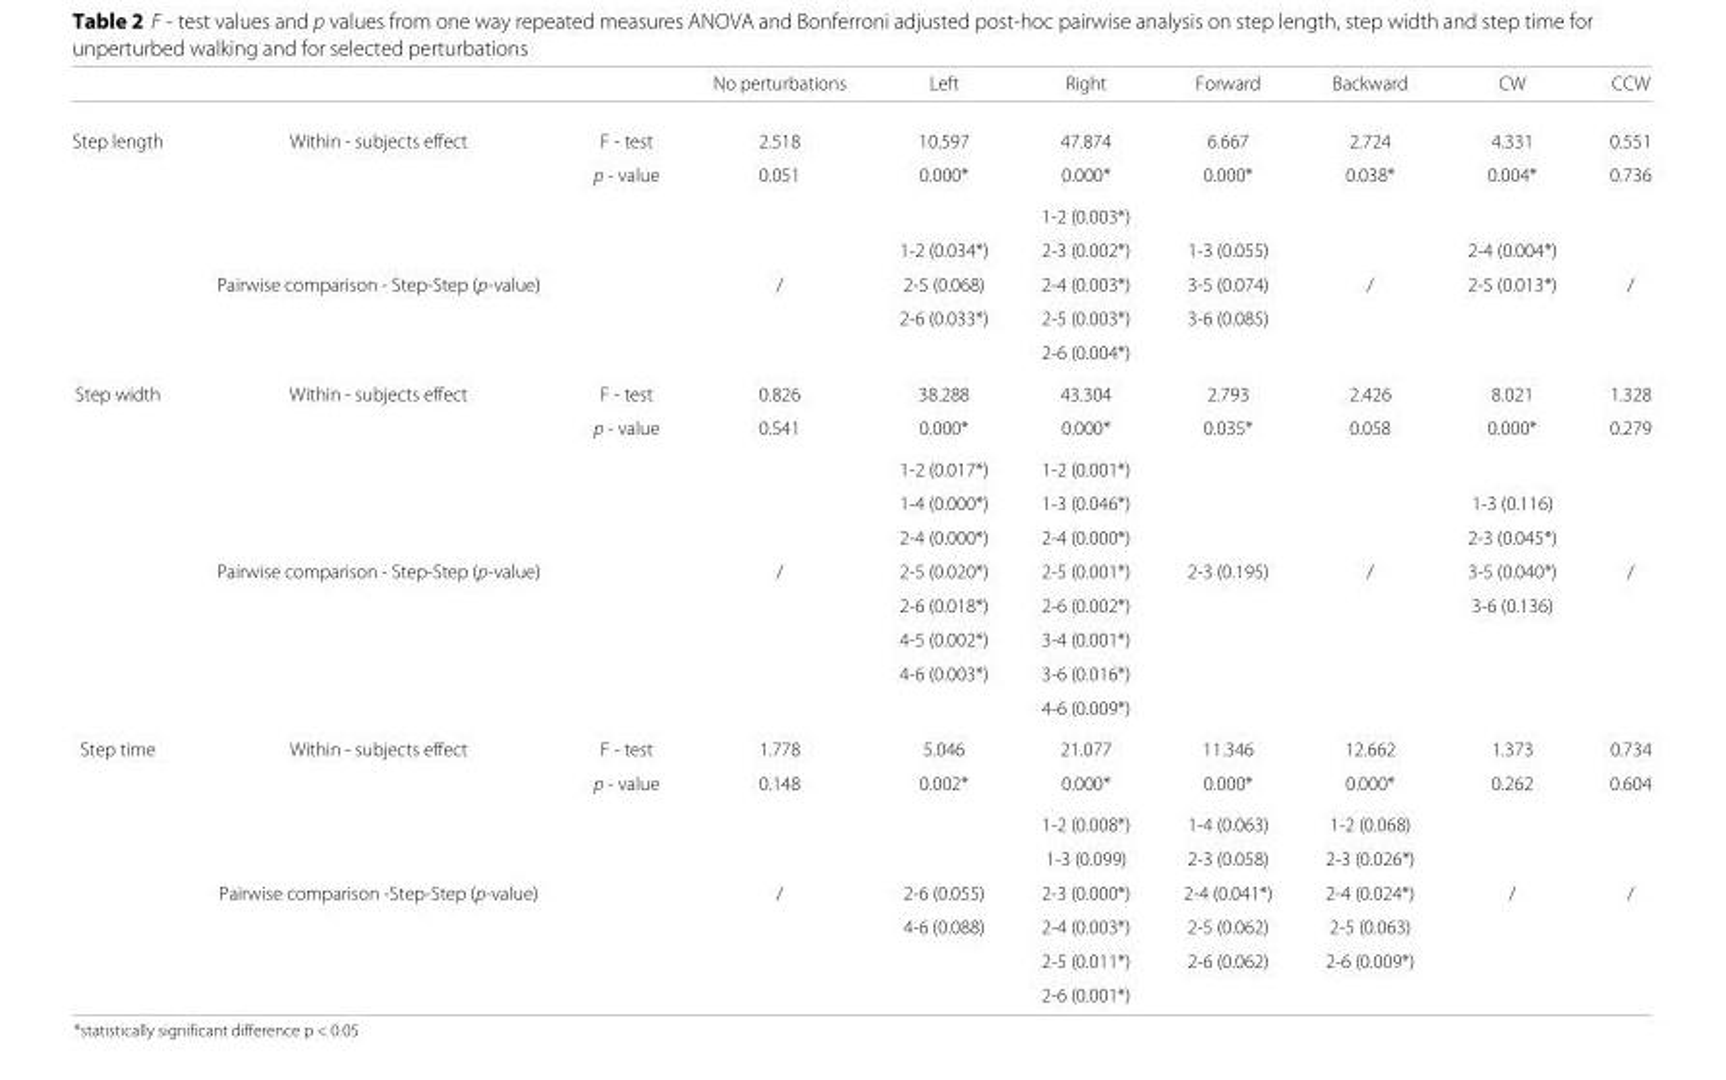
<table><thead><tr><td></td><td></td><td></td><td>No perturbations</td><td>Left</td><td>Right</td><td>Forward</td><td>Backward</td><td>CW</td><td>CCW</td></tr></thead><tbody><tr><td rowspan="7">Step length</td><td>Within - subjects effect</td><td>F - test</td><td>2.518</td><td>10.597</td><td>47.874</td><td>6.667</td><td>2.724</td><td>4.331</td><td>0.551</td></tr><tr><td></td><td>p - value</td><td>0.051</td><td>0.000*</td><td>0.000*</td><td>0.000*</td><td>0.038*</td><td>0.004*</td><td>0.736</td></tr><tr><td></td><td></td><td></td><td></td><td>1-2 (0.003*)</td><td></td><td></td><td></td><td></td></tr><tr><td></td><td></td><td></td><td>1-2 (0.034*)</td><td>2-3 (0.002*)</td><td>1-3 (0.055)</td><td></td><td>2-4 (0.004*)</td><td></td></tr><tr><td>Pairwise comparison - Step-Step (p-value)</td><td></td><td>/</td><td>2-5 (0.068)</td><td>2-4 (0.003*)</td><td>3-5 (0.074)</td><td>/</td><td>2-5 (0.013*)</td><td>/</td></tr><tr><td></td><td></td><td></td><td>2-6 (0.033*)</td><td>2-5 (0.003*)</td><td>3-6 (0.085)</td><td></td><td></td><td></td></tr><tr><td></td><td></td><td></td><td></td><td>2-6 (0.004*)</td><td></td><td></td><td></td><td></td></tr><tr><td rowspan="10">Step width</td><td>Within - subjects effect</td><td>F - test</td><td>0.826</td><td>38.288</td><td>43.304</td><td>2.793</td><td>2.426</td><td>8.021</td><td>1.328</td></tr><tr><td></td><td>p - value</td><td>0.541</td><td>0.000*</td><td>0.000*</td><td>0.035*</td><td>0.058</td><td>0.000*</td><td>0.279</td></tr><tr><td></td><td></td><td></td><td>1-2 (0.017*)</td><td>1-2 (0.001*)</td><td></td><td></td><td></td><td></td></tr><tr><td></td><td></td><td></td><td>1-4 (0.000*)</td><td>1-3 (0.046*)</td><td></td><td></td><td>1-3 (0.116)</td><td></td></tr><tr><td></td><td></td><td></td><td>2-4 (0.000*)</td><td>2-4 (0.000*)</td><td></td><td></td><td>2-3 (0.045*)</td><td></td></tr><tr><td>Pairwise comparison - Step-Step (p-value)</td><td></td><td>/</td><td>2-5 (0.020*)</td><td>2-5 (0.001*)</td><td>2-3 (0.195)</td><td>/</td><td>3-5 (0.040*)</td><td>/</td></tr><tr><td></td><td></td><td></td><td>2-6 (0.018*)</td><td>2-6 (0.002*)</td><td></td><td></td><td>3-6 (0.136)</td><td></td></tr><tr><td></td><td></td><td></td><td>4-5 (0.002*)</td><td>3-4 (0.001*)</td><td></td><td></td><td></td><td></td></tr><tr><td></td><td></td><td></td><td>4-6 (0.003*)</td><td>3-6 (0.016*)</td><td></td><td></td><td></td><td></td></tr><tr><td></td><td></td><td></td><td></td><td>4-6 (0.009*)</td><td></td><td></td><td></td><td></td></tr><tr><td rowspan="8">Step time</td><td>Within - subjects effect</td><td>F - test</td><td>1.778</td><td>5.046</td><td>21.077</td><td>11.346</td><td>12.662</td><td>1.373</td><td>0.734</td></tr><tr><td></td><td>p - value</td><td>0.148</td><td>0.002*</td><td>0.000*</td><td>0.000*</td><td>0.000*</td><td>0.262</td><td>0.604</td></tr><tr><td></td><td></td><td></td><td></td><td>1-2 (0.008*)</td><td>1-4 (0.063)</td><td>1-2 (0.068)</td><td></td><td></td></tr><tr><td></td><td></td><td></td><td></td><td>1-3 (0.099)</td><td>2-3 (0.058)</td><td>2-3 (0.026*)</td><td></td><td></td></tr><tr><td>Pairwise comparison -Step-Step (p-value)</td><td></td><td>/</td><td>2-6 (0.055)</td><td>2-3 (0.000*)</td><td>2-4 (0.041*)</td><td>2-4 (0.024*)</td><td>/</td><td>/</td></tr><tr><td></td><td></td><td></td><td>4-6 (0.088)</td><td>2-4 (0.003*)</td><td>2-5 (0.062)</td><td>2-5 (0.063)</td><td></td><td></td></tr><tr><td></td><td></td><td></td><td></td><td>2-5 (0.011*)</td><td>2-6 (0.062)</td><td>2-6 (0.009*)</td><td></td><td></td></tr><tr><td></td><td></td><td></td><td></td><td>2-6 (0.001*)</td><td></td><td></td><td></td><td></td></tr></tbody></table>